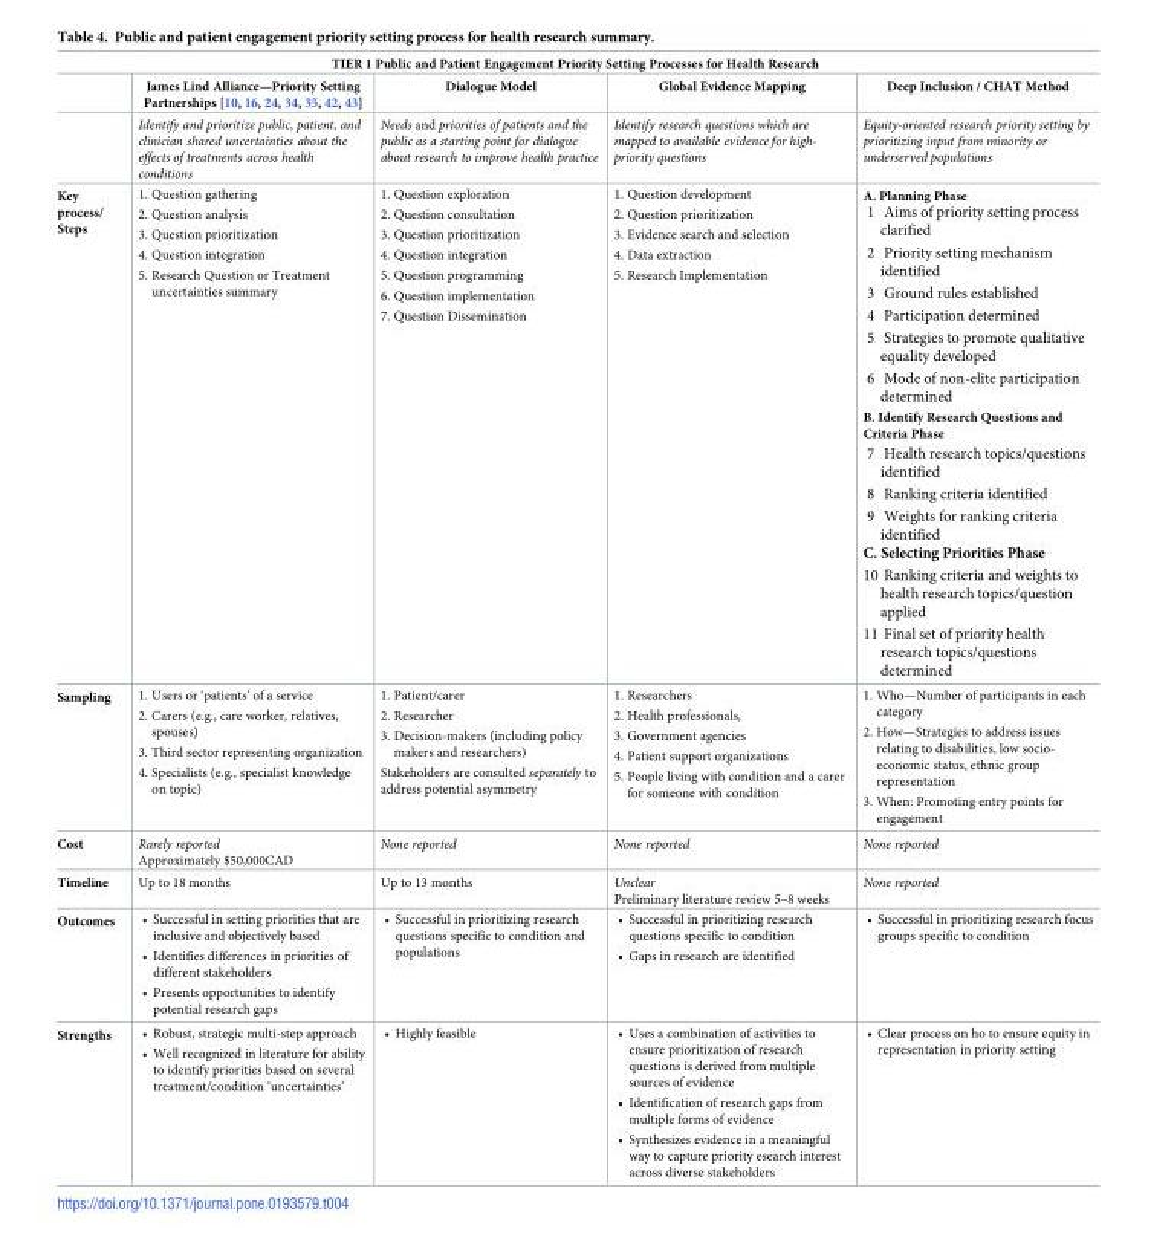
<table><thead><tr><td colspan="5">TIER 1 Public and Patient Engagement Priority Setting Processes for Health Research</td></tr><tr><td></td><td>James Lind Alliance—Priority Setting Partnerships [10, 16, 24, 34, 35, 42, 43]</td><td>Dialogue Model</td><td>Global Evidence Mapping</td><td>Deep Inclusion / CHAT Method</td></tr></thead><tbody><tr><td></td><td>Identify and prioritize public, patient, and clinician shared uncertainties about the effects of treatments across health conditions</td><td>Needs and priorities of patients and the public as a starting point for dialogue about research to improve health practice</td><td>Identify research questions which are mapped to available evidence for high- priority questions</td><td>Equity-oriented research priority setting by prioritizing input from minority or underserved populations</td></tr><tr><td>Key process/ Steps</td><td>1. Question gathering 2. Question analysis 3. Question prioritization 4. Question integration 5. Research Question or Treatment uncertainties summary</td><td>1. Question exploration 2. Question consultation 3. Question prioritization 4. Question integration 5. Question programming 6. Question implementation 7. Question Dissemination</td><td>1. Question development 2. Question prioritization 3. Evidence search and selection 4. Data extraction 5. Research Implementation</td><td>A. Planning Phase 1 Aims of priority setting process clarified 2 Priority setting mechanism identified 3 Ground rules established 4 Participation determined 5 Strategies to promote qualitative equality developed 6 Mode of non-elite participation determined B. Identify Research Questions and Criteria Phase 7 Health research topics/questions identified 8 Ranking criteria identified 9 Weights for ranking criteria identified C. Selecting Priorities Phase 10 Ranking criteria and weights to health research topics/question applied 11 Final set of priority health research topics/questions determined</td></tr><tr><td>Sampling</td><td>1. Users or ‘patients’ of a service 2. Carers (e.g., care worker, relatives, spouses) 3. Third sector representing organization 4. Specialists (e.g., specialist knowledge on topic)</td><td>1. Patient/carer 2. Researcher 3. Decision-makers (including policy makers and researchers) Stakeholders are consulted separately to address potential asymmetry</td><td>1. Researchers 2. Health professionals, 3. Government agencies 4. Patient support organizations 5. People living with condition and a carer for someone with condition</td><td>1. Who—Number of participants in each category 2. How—Strategies to address issues relating to disabilities, low socio- economic status, ethnic group representation 3. When: Promoting entry points for engagement</td></tr><tr><td>Cost</td><td>Rarely reported Approximately $50,000CAD</td><td>None reported</td><td>None reported</td><td>None reported</td></tr><tr><td>Timeline</td><td>Up to 18 months</td><td>Up to 13 months</td><td>Unclear Preliminary literature review 5–8 weeks</td><td>None reported</td></tr><tr><td>Outcomes</td><td>• Successful in setting priorities that are inclusive and objectively based • Identifies differences in priorities of different stakeholders • Presents opportunities to identify potential research gaps</td><td>• Successful in prioritizing research questions specific to condition and populations</td><td>• Successful in prioritizing research questions specific to condition • Gaps in research are identified</td><td>• Successful in prioritizing research focus groups specific to condition</td></tr><tr><td>Strengths</td><td>• Robust, strategic multi-step approach • Well recognized in literature for ability to identify priorities based on several treatment/condition ‘uncertainties’</td><td>• Highly feasible</td><td>• Uses a combination of activities to ensure prioritization of research questions is derived from multiple sources of evidence • Identification of research gaps from multiple forms of evidence • Synthesizes evidence in a meaningful way to capture priority esearch interest across diverse stakeholders</td><td>• Clear process on ho to ensure equity in representation in priority setting</td></tr></tbody></table>